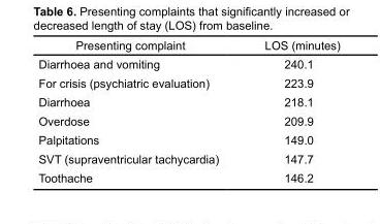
<table><thead><tr><td>Presenting complaint</td><td>LOS (minutes)</td></tr></thead><tbody><tr><td>Diarrhoea and vomiting</td><td>240.1</td></tr><tr><td>For crisis (psychiatric evaluation)</td><td>223.9</td></tr><tr><td>Diarrhoea</td><td>218.1</td></tr><tr><td>Overdose</td><td>209.9</td></tr><tr><td>Palpitations</td><td>149.0</td></tr><tr><td>SVT (supraventricular tachycardia)</td><td>147.7</td></tr><tr><td>Toothache</td><td>146.2</td></tr></tbody></table>